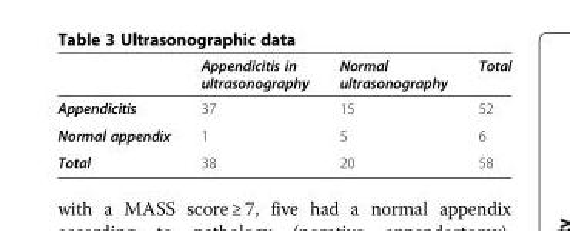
<table><thead><tr><td></td><td>Appendicitis in ultrasonography</td><td>Normal ultrasonography</td><td>Total</td></tr></thead><tbody><tr><td>Appendicitis</td><td>37</td><td>15</td><td>52</td></tr><tr><td>Normal appendix</td><td>1</td><td>5</td><td>6</td></tr><tr><td>Total</td><td>38</td><td>20</td><td>58</td></tr></tbody></table>